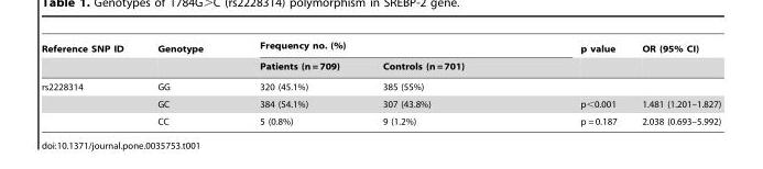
<table><thead><tr><td rowspan="2">Reference SNP ID</td><td rowspan="2">Genotype</td><td colspan="2">Frequency no. (%)</td><td rowspan="2">p value</td><td rowspan="2">OR (95% CI)</td></tr><tr><td>Patients (n = 709)</td><td>Controls (n = 701)</td></tr></thead><tbody><tr><td rowspan="3">rs2228314</td><td>GG</td><td>320 (45.1%)</td><td>385 (55%)</td><td></td><td></td></tr><tr><td>GC</td><td>384 (54.1%)</td><td>307 (43.8%)</td><td>p&lt;0.001</td><td>1.481 (1.201–1.827)</td></tr><tr><td>CC</td><td>5 (0.8%)</td><td>9 (1.2%)</td><td>p = 0.187</td><td>2.038 (0.693–5.992)</td></tr></tbody></table>